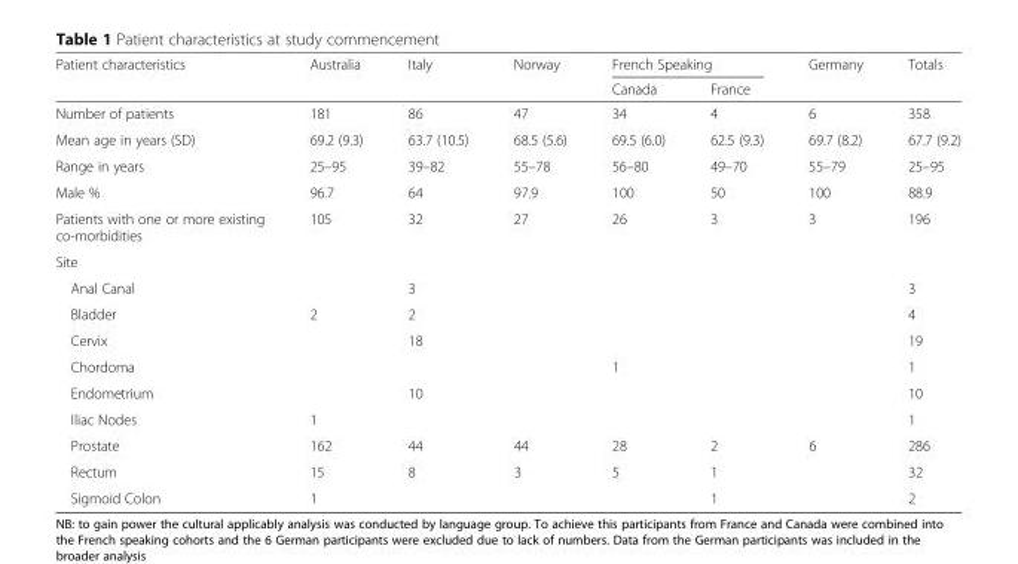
<table><thead><tr><td rowspan="2">Patient characteristics</td><td rowspan="2">Australia</td><td rowspan="2">Italy</td><td rowspan="2">Norway</td><td colspan="2">French Speaking</td><td rowspan="2">Germany</td><td rowspan="2">Totals</td></tr><tr><td>Canada</td><td>France</td></tr></thead><tbody><tr><td>Number of patients</td><td>181</td><td>86</td><td>47</td><td>34</td><td>4</td><td>6</td><td>358</td></tr><tr><td>Mean age in years (SD)</td><td>69.2 (9.3)</td><td>63.7 (10.5)</td><td>68.5 (5.6)</td><td>69.5 (6.0)</td><td>62.5 (9.3)</td><td>69.7 (8.2)</td><td>67.7 (9.2)</td></tr><tr><td>Range in years</td><td>25–95</td><td>39–82</td><td>55–78</td><td>56–80</td><td>49–70</td><td>55–79</td><td>25–95</td></tr><tr><td>Male %</td><td>96.7</td><td>64</td><td>97.9</td><td>100</td><td>50</td><td>100</td><td>88.9</td></tr><tr><td>Patients with one or more existing co-morbidities</td><td>105</td><td>32</td><td>27</td><td>26</td><td>3</td><td>3</td><td>196</td></tr><tr><td colspan="8">Site</td></tr><tr><td>Anal Canal</td><td></td><td>3</td><td></td><td></td><td></td><td></td><td>3</td></tr><tr><td>Bladder</td><td>2</td><td>2</td><td></td><td></td><td></td><td></td><td>4</td></tr><tr><td>Cervix</td><td></td><td>18</td><td></td><td></td><td></td><td></td><td>19</td></tr><tr><td>Chordoma</td><td></td><td></td><td></td><td>1</td><td></td><td></td><td>1</td></tr><tr><td>Endometrium</td><td></td><td>10</td><td></td><td></td><td></td><td></td><td>10</td></tr><tr><td>Iliac Nodes</td><td>1</td><td></td><td></td><td></td><td></td><td></td><td>1</td></tr><tr><td>Prostate</td><td>162</td><td>44</td><td>44</td><td>28</td><td>2</td><td>6</td><td>286</td></tr><tr><td>Rectum</td><td>15</td><td>8</td><td>3</td><td>5</td><td>1</td><td></td><td>32</td></tr><tr><td>Sigmoid Colon</td><td>1</td><td></td><td></td><td></td><td>1</td><td></td><td>2</td></tr></tbody></table>